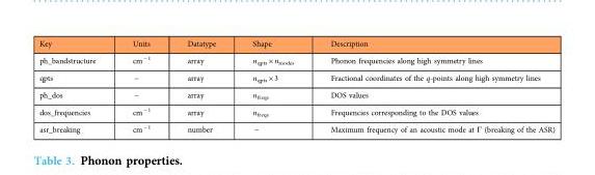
<table><thead><tr><td>Key</td><td>Units</td><td>Datatype</td><td>Shape</td><td>Description</td></tr></thead><tbody><tr><td>ph_bandstructure</td><td>cm <sup>− 1</sup></td><td>array</td><td>n<sub>qpts</sub> × n<sub>modes</sub></td><td>Phonon frequencies along high symmetry lines</td></tr><tr><td>qpts</td><td>−</td><td>array</td><td>n<sub>qpts</sub> × 3</td><td>Fractional coordinates of the q-points along high symmetry lines</td></tr><tr><td>ph_dos</td><td>−</td><td>array</td><td>n<sub>freqs</sub></td><td>DOS values</td></tr><tr><td>dos_frequencies</td><td>cm <sup>− 1</sup></td><td>array</td><td>n<sub>freqs</sub></td><td>Frequencies corresponding to the DOS values</td></tr><tr><td>asr_breaking</td><td>cm <sup>− 1</sup></td><td>number</td><td>−</td><td>Maximum frequency of an acoustic mode at Γ (breaking of the ASR)</td></tr></tbody></table>